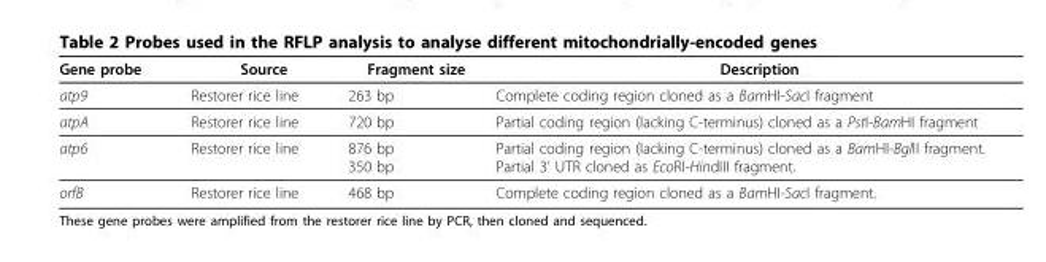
<table><thead><tr><td>Gene probe</td><td>Source</td><td>Fragment size</td><td>Description</td></tr></thead><tbody><tr><td>atp9</td><td>Restorer rice line</td><td>263 bp</td><td>Complete coding region cloned as a BamHI-SacI fragment</td></tr><tr><td>atpA</td><td>Restorer rice line</td><td>720 bp</td><td>Partial coding region (lacking C-terminus) cloned as a PstI-BamHI fragment</td></tr><tr><td>atp6</td><td>Restorer rice line</td><td>876 bp 350 bp</td><td>Partial coding region (lacking C-terminus) cloned as a BamHI-BglII fragment. Partial 3’ UTR cloned as EcoRI-HindIII fragment.</td></tr><tr><td>orfB</td><td>Restorer rice line</td><td>468 bp</td><td>Complete coding region cloned as a BamHI-SacI fragment.</td></tr></tbody></table>